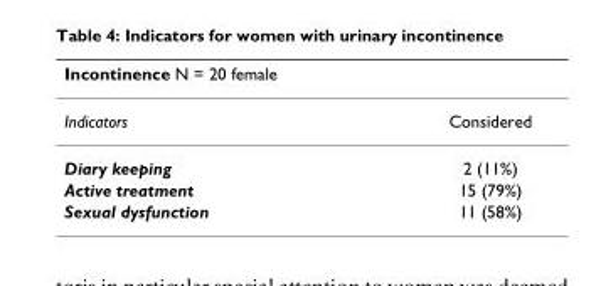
<table><thead><tr><td>Incontinence N = 20 female</td><td></td></tr></thead><tbody><tr><td>Indicators</td><td>Considered</td></tr><tr><td>Diary keeping</td><td>2 (11%)</td></tr><tr><td>Active treatment</td><td>15 (79%)</td></tr><tr><td>Sexual dysfunction</td><td>11 (58%)</td></tr></tbody></table>